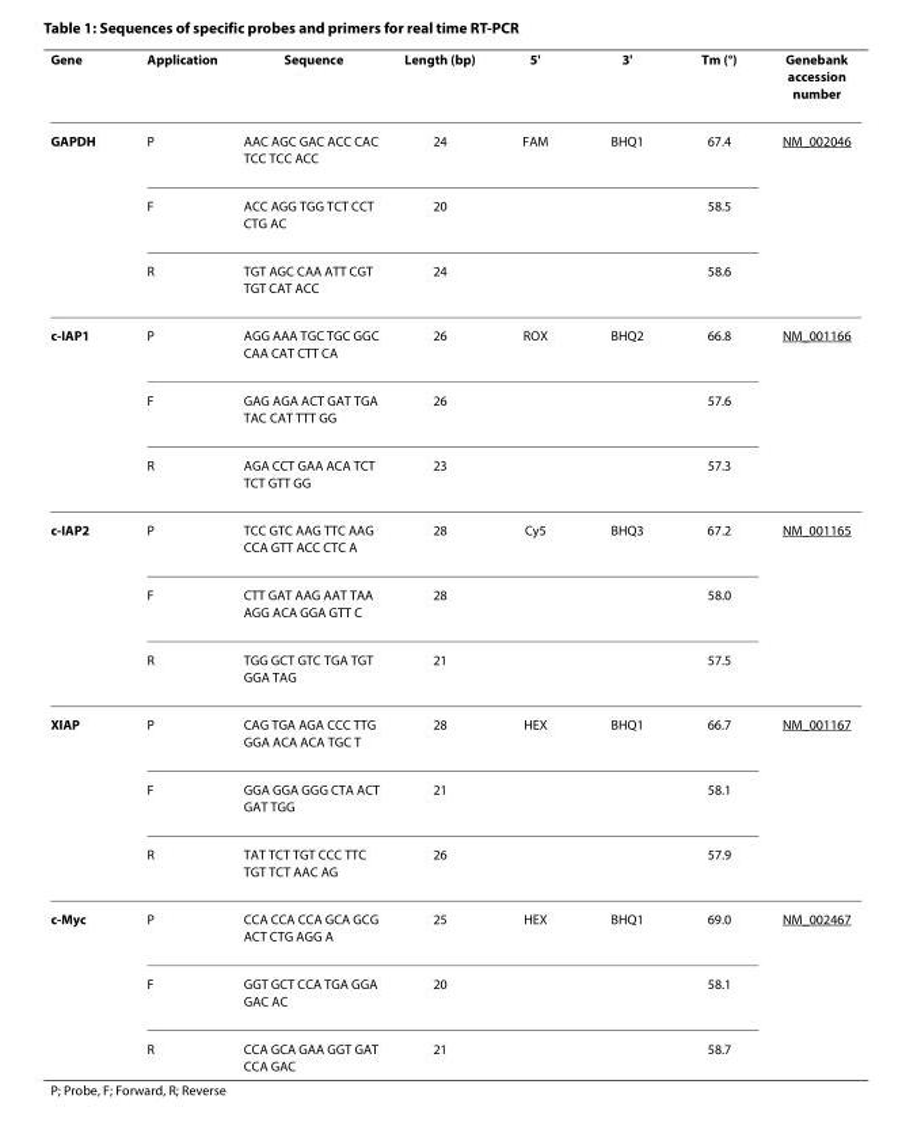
<table><thead><tr><td>Gene</td><td>Application</td><td>Sequence</td><td>Length (bp)</td><td>5&#x27;</td><td>3&#x27;</td><td>Tm (°)</td><td>Genebank accession number</td></tr></thead><tbody><tr><td rowspan="3">GAPDH</td><td>P</td><td>AAC AGC GAC ACC CAC TCC TCC ACC</td><td>24</td><td>FAM</td><td>BHQ1</td><td>67.4</td><td>NM_002046</td></tr><tr><td>F</td><td>ACC AGG TGG TCT CCT CTG AC</td><td>20</td><td></td><td></td><td>58.5</td><td></td></tr><tr><td>R</td><td>TGT AGC CAA ATT CGT TGT CAT ACC</td><td>24</td><td></td><td></td><td>58.6</td><td></td></tr><tr><td rowspan="3">c-IAP1</td><td>P</td><td>AGG AAA TGC TGC GGC CAA CAT CTT CA</td><td>26</td><td>ROX</td><td>BHQ2</td><td>66.8</td><td>NM_001166</td></tr><tr><td>F</td><td>GAG AGA ACT GAT TGA TAC CAT TTT GG</td><td>26</td><td></td><td></td><td>57.6</td><td></td></tr><tr><td>R</td><td>AGA CCT GAA ACA TCT TCT GTT GG</td><td>23</td><td></td><td></td><td>57.3</td><td></td></tr><tr><td rowspan="3">c-IAP2</td><td>P</td><td>TCC GTC AAG TTC AAG CCA GTT ACC CTC A</td><td>28</td><td>Cy5</td><td>BHQ3</td><td>67.2</td><td>NM_001165</td></tr><tr><td>F</td><td>CTT GAT AAG AAT TAA AGG ACA GGA GTT C</td><td>28</td><td></td><td></td><td>58.0</td><td></td></tr><tr><td>R</td><td>TGG GCT GTC TGA TGT GGA TAG</td><td>21</td><td></td><td></td><td>57.5</td><td></td></tr><tr><td rowspan="3">XIAP</td><td>P</td><td>CAG TGA AGA CCC TTG GGA ACA ACA TGC T</td><td>28</td><td>HEX</td><td>BHQ1</td><td>66.7</td><td>NM_001167</td></tr><tr><td>F</td><td>GGA GGA GGG CTA ACT GAT TGG</td><td>21</td><td></td><td></td><td>58.1</td><td></td></tr><tr><td>R</td><td>TAT TCT TGT CCC TTC TGT TCT AAC AG</td><td>26</td><td></td><td></td><td>57.9</td><td></td></tr><tr><td rowspan="3">c-Myc</td><td>P</td><td>CCA CCA CCA GCA GCG ACT CTG AGG A</td><td>25</td><td>HEX</td><td>BHQ1</td><td>69.0</td><td>NM_002467</td></tr><tr><td>F</td><td>GGT GCT CCA TGA GGA GAC AC</td><td>20</td><td></td><td></td><td>58.1</td><td></td></tr><tr><td>R</td><td>CCA GCA GAA GGT GAT CCA GAC</td><td>21</td><td></td><td></td><td>58.7</td><td></td></tr></tbody></table>